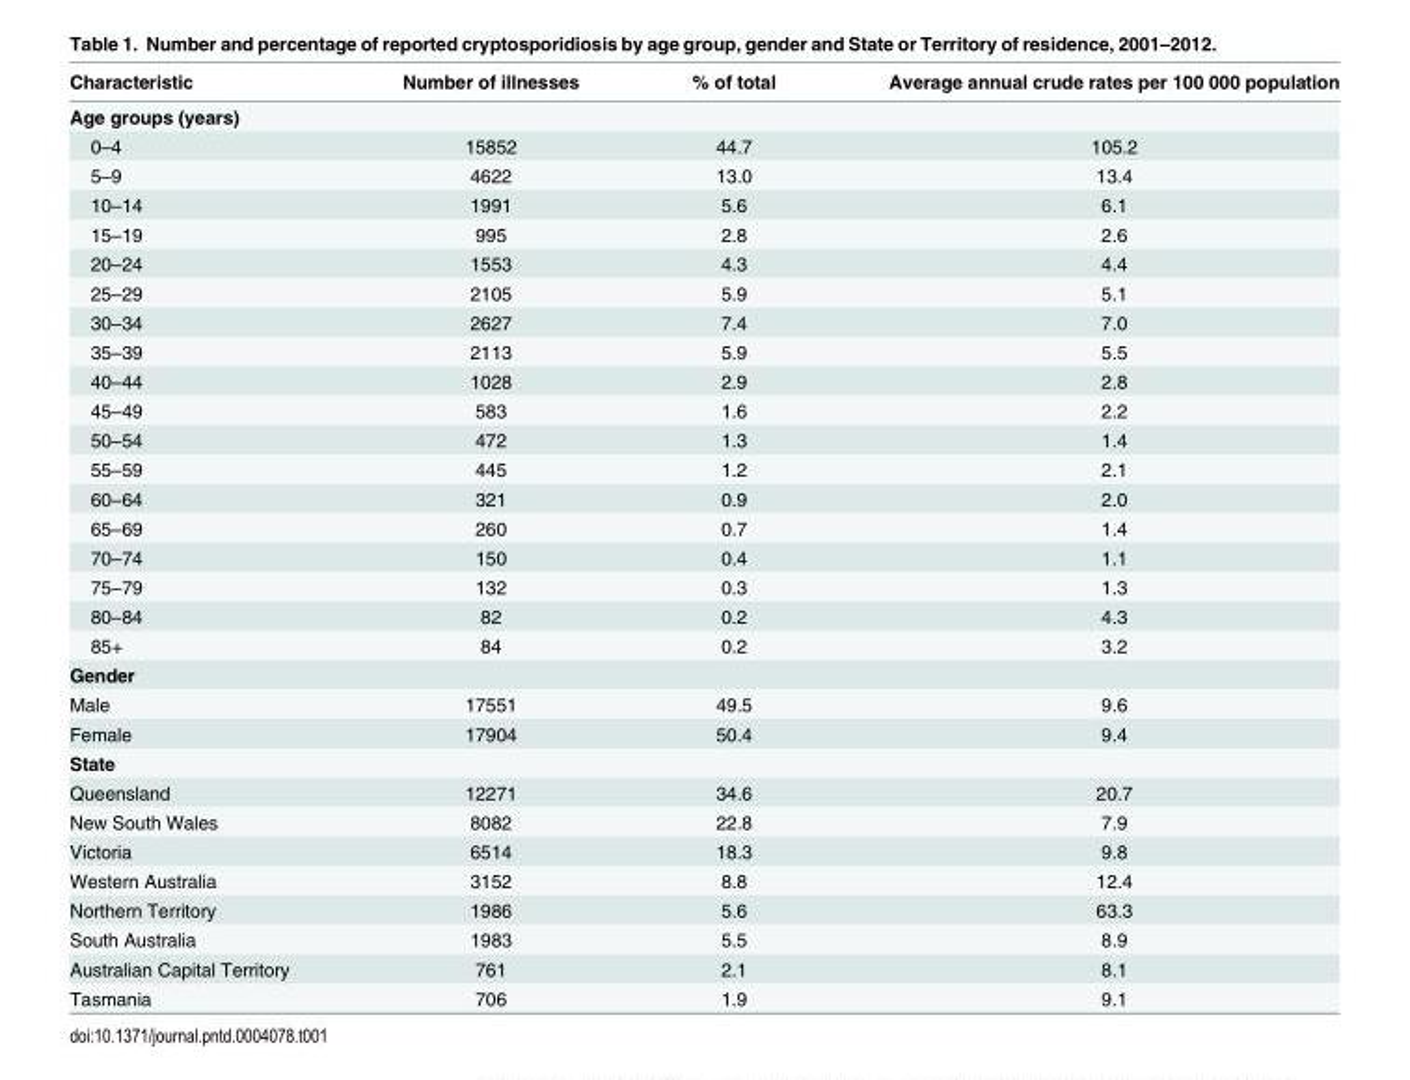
<table><thead><tr><td>Characteristic</td><td>Number of illnesses</td><td>% of total</td><td>Average annual crude rates per 100 000 population</td></tr></thead><tbody><tr><td colspan="4">Age groups (years)</td></tr><tr><td>0–4</td><td>15852</td><td>44.7</td><td>105.2</td></tr><tr><td>5–9</td><td>4622</td><td>13.0</td><td>13.4</td></tr><tr><td>10–14</td><td>1991</td><td>5.6</td><td>6.1</td></tr><tr><td>15–19</td><td>995</td><td>2.8</td><td>2.6</td></tr><tr><td>20–24</td><td>1553</td><td>4.3</td><td>4.4</td></tr><tr><td>25–29</td><td>2105</td><td>5.9</td><td>5.1</td></tr><tr><td>30–34</td><td>2627</td><td>7.4</td><td>7.0</td></tr><tr><td>35–39</td><td>2113</td><td>5.9</td><td>5.5</td></tr><tr><td>40–44</td><td>1028</td><td>2.9</td><td>2.8</td></tr><tr><td>45–49</td><td>583</td><td>1.6</td><td>2.2</td></tr><tr><td>50–54</td><td>472</td><td>1.3</td><td>1.4</td></tr><tr><td>55–59</td><td>445</td><td>1.2</td><td>2.1</td></tr><tr><td>60–64</td><td>321</td><td>0.9</td><td>2.0</td></tr><tr><td>65–69</td><td>260</td><td>0.7</td><td>1.4</td></tr><tr><td>70–74</td><td>150</td><td>0.4</td><td>1.1</td></tr><tr><td>75–79</td><td>132</td><td>0.3</td><td>1.3</td></tr><tr><td>80–84</td><td>82</td><td>0.2</td><td>4.3</td></tr><tr><td>85+</td><td>84</td><td>0.2</td><td>3.2</td></tr><tr><td colspan="4">Gender</td></tr><tr><td>Male</td><td>17551</td><td>49.5</td><td>9.6</td></tr><tr><td>Female</td><td>17904</td><td>50.4</td><td>9.4</td></tr><tr><td colspan="4">State</td></tr><tr><td>Queensland</td><td>12271</td><td>34.6</td><td>20.7</td></tr><tr><td>New South Wales</td><td>8082</td><td>22.8</td><td>7.9</td></tr><tr><td>Victoria</td><td>6514</td><td>18.3</td><td>9.8</td></tr><tr><td>Western Australia</td><td>3152</td><td>8.8</td><td>12.4</td></tr><tr><td>Northern Territory</td><td>1986</td><td>5.6</td><td>63.3</td></tr><tr><td>South Australia</td><td>1983</td><td>5.5</td><td>8.9</td></tr><tr><td>Australian Capital Territory</td><td>761</td><td>2.1</td><td>8.1</td></tr><tr><td>Tasmania</td><td>706</td><td>1.9</td><td>9.1</td></tr></tbody></table>